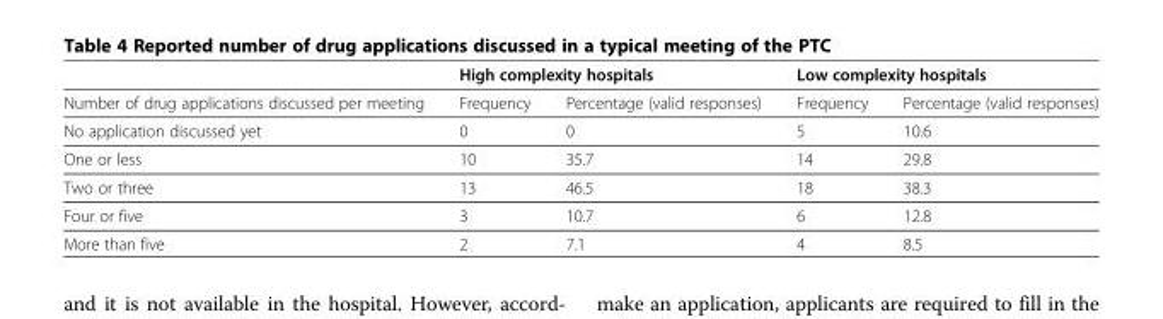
<table><thead><tr><td rowspan="2">Number of drug applications discussed per meeting</td><td colspan="2">High complexity hospitals</td><td colspan="2">Low complexity hospitals</td></tr><tr><td>Frequency</td><td>Percentage (valid responses)</td><td>Frequency</td><td>Percentage (valid responses)</td></tr></thead><tbody><tr><td>No application discussed yet</td><td>0</td><td>0</td><td>5</td><td>10.6</td></tr><tr><td>One or less</td><td>10</td><td>35.7</td><td>14</td><td>29.8</td></tr><tr><td>Two or three</td><td>13</td><td>46.5</td><td>18</td><td>38.3</td></tr><tr><td>Four or five</td><td>3</td><td>10.7</td><td>6</td><td>12.8</td></tr><tr><td>More than five</td><td>2</td><td>7.1</td><td>4</td><td>8.5</td></tr></tbody></table>